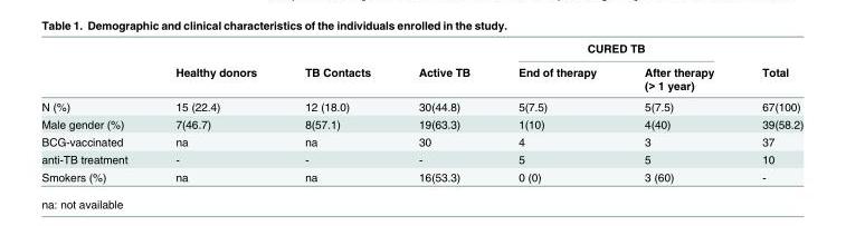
<table><thead><tr><td rowspan="3"></td><td rowspan="3">Healthy donors</td><td rowspan="3">TB Contacts</td><td rowspan="3">Active TB</td><td colspan="2">CURED TB</td><td rowspan="3">Total</td></tr><tr><td rowspan="2">End of therapy</td><td rowspan="2">After therapy (&gt; 1 year)</td></tr><tr></tr></thead><tbody><tr><td>N (%)</td><td>15 (22.4)</td><td>12 (18.0)</td><td>30(44.8)</td><td>5(7.5)</td><td>5(7.5)</td><td>67(100)</td></tr><tr><td>Male gender (%)</td><td>7(46.7)</td><td>8(57.1)</td><td>19(63.3)</td><td>1(10)</td><td>4(40)</td><td>39(58.2)</td></tr><tr><td>BCG-vaccinated</td><td>na</td><td>na</td><td>30</td><td>4</td><td>3</td><td>37</td></tr><tr><td>anti-TB treatment</td><td>-</td><td>-</td><td>-</td><td>5</td><td>5</td><td>10</td></tr><tr><td>Smokers (%)</td><td>na</td><td>na</td><td>16(53.3)</td><td>0 (0)</td><td>3 (60)</td><td>-</td></tr></tbody></table>